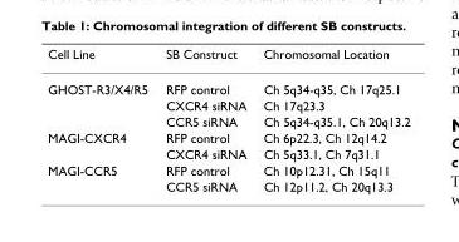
<table><thead><tr><td>Cell Line</td><td>SB Construct</td><td>Chromosomal Location</td></tr></thead><tbody><tr><td rowspan="3">GHOST-R3/X4/R5</td><td>RFP control</td><td>Ch 5q34-q35, Ch 17q25.1</td></tr><tr><td>CXCR4 siRNA</td><td>Ch 17q23.3</td></tr><tr><td>CCR5 siRNA</td><td>Ch 5q34-q35.1, Ch 20q13.2</td></tr><tr><td rowspan="2">MAGI-CXCR4</td><td>RFP control</td><td>Ch 6p22.3, Ch 12q14.2</td></tr><tr><td>CXCR4 siRNA</td><td>Ch 5q33.1, Ch 7q31.1</td></tr><tr><td rowspan="2">MAGI-CCR5</td><td>RFP control</td><td>Ch 10p12.31, Ch 15q11</td></tr><tr><td>CCR5 siRNA</td><td>Ch 12p11.2, Ch 20q13.3</td></tr></tbody></table>